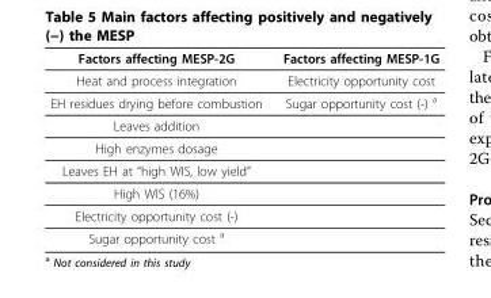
<table><thead><tr><td>Factors affecting MESP-2G</td><td>Factors affecting MESP-1G</td></tr></thead><tbody><tr><td>Heat and process integration</td><td>Electricity opportunity cost</td></tr><tr><td>EH residues drying before combustion</td><td>Sugar opportunity cost (-) <sup>a</sup></td></tr><tr><td colspan="2">Leaves addition</td></tr><tr><td colspan="2">High enzymes dosage</td></tr><tr><td colspan="2">Leaves EH at “high WIS, low yield”</td></tr><tr><td colspan="2">High WIS (16%)</td></tr><tr><td colspan="2">Electricity opportunity cost (-)</td></tr><tr><td>Sugar opportunity cost a</td><td></td></tr></tbody></table>